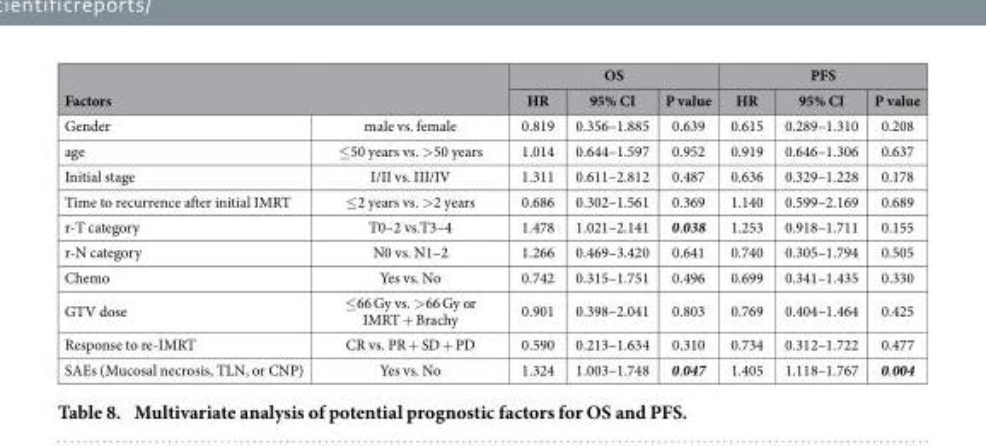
<table><thead><tr><td></td><td></td><td colspan="3">OS</td><td colspan="3">PFS</td></tr><tr><td colspan="2">Factors</td><td>HR</td><td>95% CI</td><td>P value</td><td>HR</td><td>95% CI</td><td>P value</td></tr></thead><tbody><tr><td>Gender</td><td>male vs. female</td><td>0.819</td><td>0.356–1.885</td><td>0.639</td><td>0.615</td><td>0.289–1.310</td><td>0.208</td></tr><tr><td>age</td><td>≤ 50 years vs. &gt; 50 years</td><td>1.014</td><td>0.644–1.597</td><td>0.952</td><td>0.919</td><td>0.646–1.306</td><td>0.637</td></tr><tr><td>Initial stage</td><td>I/II vs. III/IV</td><td>1.311</td><td>0.611–2.812</td><td>0.487</td><td>0.636</td><td>0.329–1.228</td><td>0.178</td></tr><tr><td>Time to recurrence after initial IMRT</td><td>≤ 2 years vs. &gt; 2 years</td><td>0.686</td><td>0.302–1.561</td><td>0.369</td><td>1.140</td><td>0.599–2.169</td><td>0.689</td></tr><tr><td>r-T category</td><td>T0–2 vs.T3–4</td><td>1.478</td><td>1.021–2.141</td><td>0.038</td><td>1.253</td><td>0.918–1.711</td><td>0.155</td></tr><tr><td>r-N category</td><td>N0 vs. N1–2</td><td>1.266</td><td>0.469–3.420</td><td>0.641</td><td>0.740</td><td>0.305–1.794</td><td>0.505</td></tr><tr><td>Chemo</td><td>Yes vs. No</td><td>0.742</td><td>0.315–1.751</td><td>0.496</td><td>0.699</td><td>0.341–1.435</td><td>0.330</td></tr><tr><td>GTV dose</td><td>≤ 66 Gy vs. &gt; 66 Gy or IMRT + Brachy</td><td>0.901</td><td>0.398–2.041</td><td>0.803</td><td>0.769</td><td>0.404–1.464</td><td>0.425</td></tr><tr><td>Response to re-IMRT</td><td>CR vs. PR + SD + PD</td><td>0.590</td><td>0.213–1.634</td><td>0.310</td><td>0.734</td><td>0.312–1.722</td><td>0.477</td></tr><tr><td>SAEs (Mucosal necrosis, TLN, or CNP)</td><td>Yes vs. No</td><td>1.324</td><td>1.003–1.748</td><td>0.047</td><td>1.405</td><td>1.118–1.767</td><td>0.004</td></tr></tbody></table>